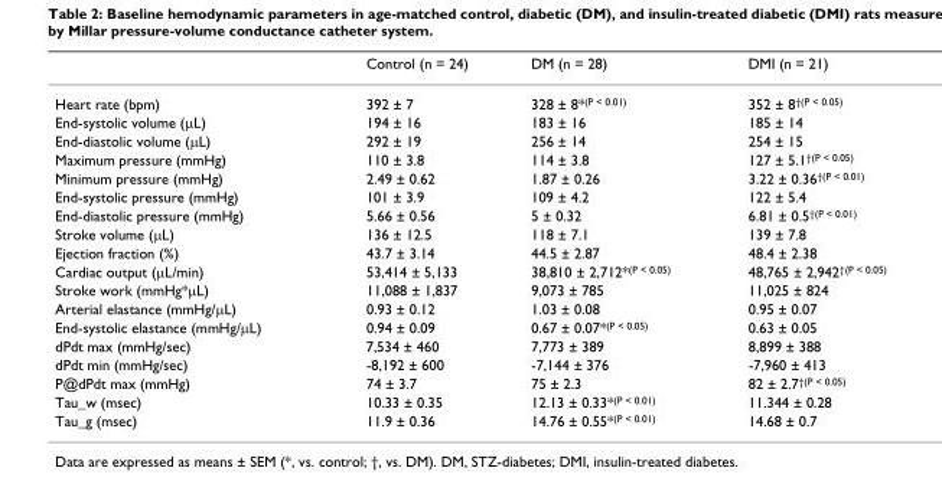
<table><thead><tr><td></td><td>Control (n = 24)</td><td>DM (n = 28)</td><td>DMI (n = 21)</td></tr></thead><tbody><tr><td>Heart rate (bpm)</td><td>392 ± 7</td><td>328 ± 8*<sup>(P &lt; 0.01)</sup></td><td>352 ± 8<sup>†(P &lt; 0.05)</sup></td></tr><tr><td>End-systolic volume (μL)</td><td>194 ± 16</td><td>183 ± 16</td><td>185 ± 14</td></tr><tr><td>End-diastolic volume (μL)</td><td>292 ± 19</td><td>256 ± 14</td><td>254 ± 15</td></tr><tr><td>Maximum pressure (mmHg)</td><td>110 ± 3.8</td><td>114 ± 3.8</td><td>127 ± 5.1<sup>†(P &lt; 0.05)</sup></td></tr><tr><td>Minimum pressure (mmHg)</td><td>2.49 ± 0.62</td><td>1.87 ± 0.26</td><td>3.22 ± 0.36<sup>†(P &lt; 0.01)</sup></td></tr><tr><td>End-systolic pressure (mmHg)</td><td>101 ± 3.9</td><td>109 ± 4.2</td><td>122 ± 5.4</td></tr><tr><td>End-diastolic pressure (mmHg)</td><td>5.66 ± 0.56</td><td>5 ± 0.32</td><td>6.81 ± 0.5<sup>†(P &lt; 0.01)</sup></td></tr><tr><td>Stroke volume (μL)</td><td>136 ± 12.5</td><td>118 ± 7.1</td><td>139 ± 7.8</td></tr><tr><td>Ejection fraction (%)</td><td>43.7 ± 3.14</td><td>44.5 ± 2.87</td><td>48.4 ± 2.38</td></tr><tr><td>Cardiac output (μL/min)</td><td>53,414 ± 5,133</td><td>38,810 ± 2,712*<sup>(P &lt; 0.05)</sup></td><td>48,765 ± 2,942<sup>†(P &lt; 0.05)</sup></td></tr><tr><td>Stroke work (mmHg*μL)</td><td>11,088 ± 1,837</td><td>9,073 ± 785</td><td>11,025 ± 824</td></tr><tr><td>Arterial elastance (mmHg/μL)</td><td>0.93 ± 0.12</td><td>1.03 ± 0.08</td><td>0.95 ± 0.07</td></tr><tr><td>End-systolic elastance (mmHg/μL)</td><td>0.94 ± 0.09</td><td>0.67 ± 0.07*<sup>(P &lt; 0.05)</sup></td><td>0.63 ± 0.05</td></tr><tr><td>dPdt max (mmHg/sec)</td><td>7,534 ± 460</td><td>7,773 ± 389</td><td>8,899 ± 388</td></tr><tr><td>dPdt min (mmHg/sec)</td><td>-8,192 ± 600</td><td>-7,144 ± 376</td><td>-7,960 ± 413</td></tr><tr><td>P@dPdt max (mmHg)</td><td>74 ± 3.7</td><td>75 ± 2.3</td><td>82 ± 2.7<sup>†(P &lt; 0.05)</sup></td></tr><tr><td>Tau_w (msec)</td><td>10.33 ± 0.35</td><td>12.13 ± 0.33*<sup>(P &lt; 0.01)</sup></td><td>11.344 ± 0.28</td></tr><tr><td>Tau_g (msec)</td><td>11.9 ± 0.36</td><td>14.76 ± 0.55*<sup>(P &lt; 0.01)</sup></td><td>14.68 ± 0.7</td></tr></tbody></table>